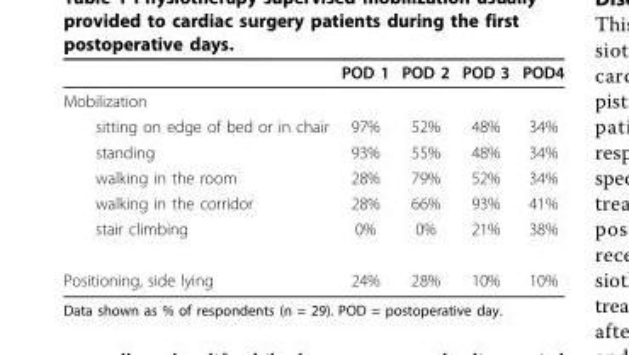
<table><thead><tr><td></td><td>POD 1</td><td>POD 2</td><td>POD 3</td><td>POD4</td></tr></thead><tbody><tr><td colspan="5">Mobilization</td></tr><tr><td>sitting on edge of bed or in chair</td><td>97%</td><td>52%</td><td>48%</td><td>34%</td></tr><tr><td>standing</td><td>93%</td><td>55%</td><td>48%</td><td>34%</td></tr><tr><td>walking in the room</td><td>28%</td><td>79%</td><td>52%</td><td>34%</td></tr><tr><td>walking in the corridor</td><td>28%</td><td>66%</td><td>93%</td><td>41%</td></tr><tr><td>stair climbing</td><td>0%</td><td>0%</td><td>21%</td><td>38%</td></tr><tr><td>Positioning, side lying</td><td>24%</td><td>28%</td><td>10%</td><td>10%</td></tr></tbody></table>